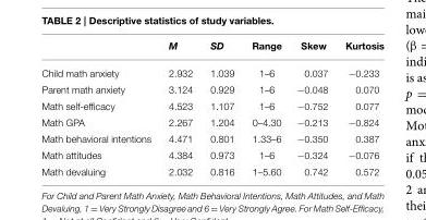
<table><thead><tr><td></td><td>M</td><td>SD</td><td>Range</td><td>Skew</td><td>Kurtosis</td></tr></thead><tbody><tr><td>Child math anxiety</td><td>2.932</td><td>1.039</td><td>1–6</td><td>0.037</td><td>−0.233</td></tr><tr><td>Parent math anxiety</td><td>3.124</td><td>0.929</td><td>1–6</td><td>−0.048</td><td>0.070</td></tr><tr><td>Math self-efficacy</td><td>4.523</td><td>1.107</td><td>1–6</td><td>−0.752</td><td>0.077</td></tr><tr><td>Math GPA</td><td>2.267</td><td>1.204</td><td>0–4.30</td><td>−0.213</td><td>−0.824</td></tr><tr><td>Math behavioral intentions</td><td>4.471</td><td>0.801</td><td>1.33–6</td><td>−0.350</td><td>0.387</td></tr><tr><td>Math attitudes</td><td>4.384</td><td>0.973</td><td>1–6</td><td>−0.324</td><td>−0.076</td></tr><tr><td>Math devaluing</td><td>2.032</td><td>0.816</td><td>1–5.60</td><td>0.742</td><td>0.572</td></tr></tbody></table>